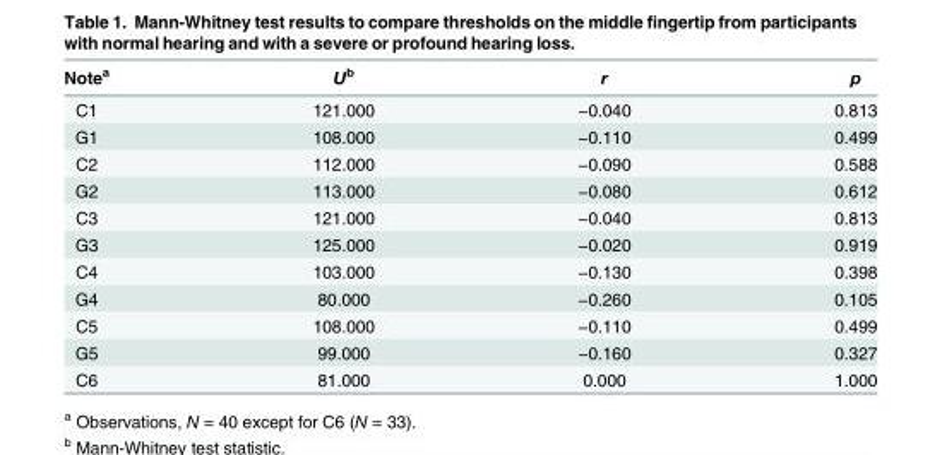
<table><thead><tr><td>Note<sup>a</sup></td><td>U<sup>b</sup></td><td>r</td><td>p</td></tr></thead><tbody><tr><td>C1</td><td>121.000</td><td>−0.040</td><td>0.813</td></tr><tr><td>G1</td><td>108.000</td><td>−0.110</td><td>0.499</td></tr><tr><td>C2</td><td>112.000</td><td>−0.090</td><td>0.588</td></tr><tr><td>G2</td><td>113.000</td><td>−0.080</td><td>0.612</td></tr><tr><td>C3</td><td>121.000</td><td>−0.040</td><td>0.813</td></tr><tr><td>G3</td><td>125.000</td><td>−0.020</td><td>0.919</td></tr><tr><td>C4</td><td>103.000</td><td>−0.130</td><td>0.398</td></tr><tr><td>G4</td><td>80.000</td><td>−0.260</td><td>0.105</td></tr><tr><td>C5</td><td>108.000</td><td>−0.110</td><td>0.499</td></tr><tr><td>G5</td><td>99.000</td><td>−0.160</td><td>0.327</td></tr><tr><td>C6</td><td>81.000</td><td>0.000</td><td>1.000</td></tr></tbody></table>